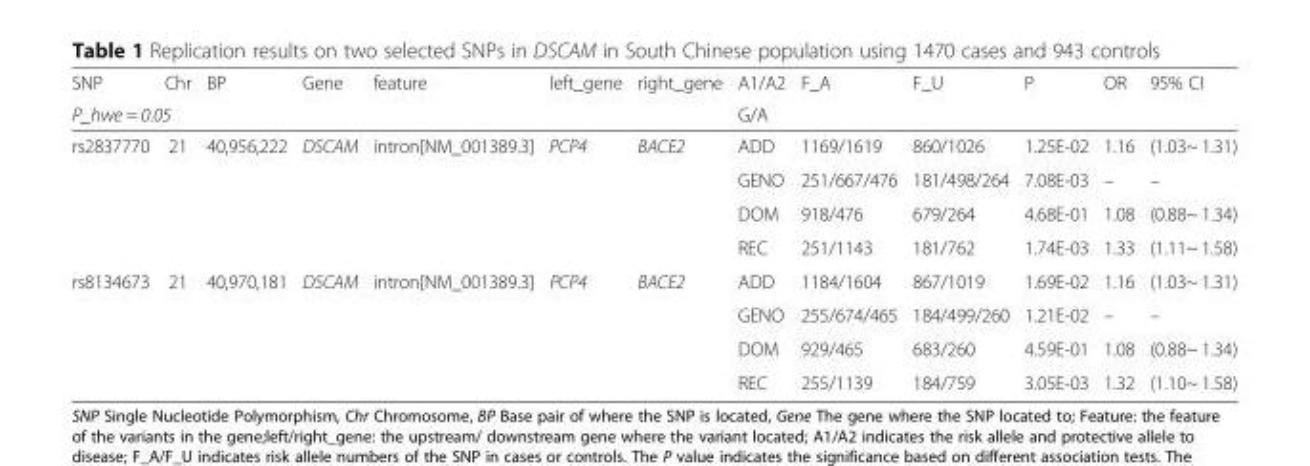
<table><thead><tr><td>SNP</td><td>Chr</td><td>BP</td><td>Gene</td><td>feature</td><td>left_gene</td><td>right_gene</td><td>A1/A2</td><td>F_A</td><td>F_U</td><td>P</td><td>OR</td><td>95% CI</td></tr><tr><td colspan="7">P_hwe = 0.05</td><td colspan="6">G/A</td></tr></thead><tbody><tr><td rowspan="4">rs2837770</td><td rowspan="4">21</td><td rowspan="4">40,956,222</td><td rowspan="4">DSCAM</td><td rowspan="4">intron[NM_001389.3]</td><td rowspan="4">PCP4</td><td rowspan="4">BACE2</td><td>ADD</td><td>1169/1619</td><td>860/1026</td><td>1.25E-02</td><td>1.16</td><td>(1.03~ 1.31)</td></tr><tr><td>GENO</td><td>251/667/476</td><td>181/498/264</td><td>7.08E-03</td><td>–</td><td>–</td></tr><tr><td>DOM</td><td>918/476</td><td>679/264</td><td>4.68E-01</td><td>1.08</td><td>(0.88~ 1.34)</td></tr><tr><td>REC</td><td>251/1143</td><td>181/762</td><td>1.74E-03</td><td>1.33</td><td>(1.11~ 1.58)</td></tr><tr><td rowspan="4">rs8134673</td><td rowspan="4">21</td><td rowspan="4">40,970,181</td><td rowspan="4">DSCAM</td><td rowspan="4">intron[NM_001389.3]</td><td rowspan="4">PCP4</td><td rowspan="4">BACE2</td><td>ADD</td><td>1184/1604</td><td>867/1019</td><td>1.69E-02</td><td>1.16</td><td>(1.03~ 1.31)</td></tr><tr><td>GENO</td><td>255/674/465</td><td>184/499/260</td><td>1.21E-02</td><td>–</td><td>–</td></tr><tr><td>DOM</td><td>929/465</td><td>683/260</td><td>4.59E-01</td><td>1.08</td><td>(0.88~ 1.34)</td></tr><tr><td>REC</td><td>255/1139</td><td>184/759</td><td>3.05E-03</td><td>1.32</td><td>(1.10~ 1.58)</td></tr></tbody></table>